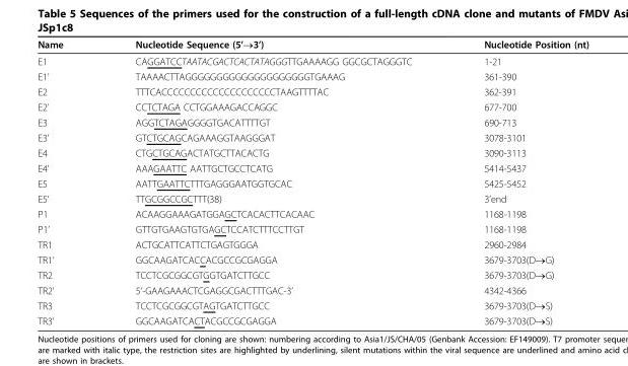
<table><thead><tr><td>Name</td><td>Nucleotide Sequence (5’→3’)</td><td>Nucleotide Position (nt)</td></tr></thead><tbody><tr><td>E1</td><td>CAGGATCCTAATACGACTCACTATAGGGTTGAAAAGG GGCGCTAGGGTC</td><td>1-21</td></tr><tr><td>E1’</td><td>TAAAACTTAGGGGGGGGGGGGGGGGGGGGTGAAAG</td><td>361-390</td></tr><tr><td>E2</td><td>TTTCACCCCCCCCCCCCCCCCCCCCTAAGTTTTAC</td><td>362-391</td></tr><tr><td>E2’</td><td>CCTCTAGA CCTGGAAAGACCAGGC</td><td>677-700</td></tr><tr><td>E3</td><td>AGGTCTAGAGGGGTGACATTTTGT</td><td>690-713</td></tr><tr><td>E3’</td><td>GTCTGCAGCAGAAAGGTAAGGGAT</td><td>3078-3101</td></tr><tr><td>E4</td><td>CTGCTGCAGACTATGCTTACACTG</td><td>3090-3113</td></tr><tr><td>E4’</td><td>AAAGAATTC AATTGCTGCCTCATG</td><td>5414-5437</td></tr><tr><td>E5</td><td>AATTGAATTCTTTGAGGGAATGGTGCAC</td><td>5425-5452</td></tr><tr><td>E5’</td><td>TTGCGGCCGCTTT(38)</td><td>3’end</td></tr><tr><td>P1</td><td>ACAAGGAAAGATGGAGCTCACACTTCACAAC</td><td>1168-1198</td></tr><tr><td>P1’</td><td>GTTGTGAAGTGTGAGCTCCATCTTTCCTTGT</td><td>1168-1198</td></tr><tr><td>TR1</td><td>ACTGCATTCATTCTGAGTGGGA</td><td>2960-2984</td></tr><tr><td>TR1’</td><td>GGCAAGATCACCACGCCGCGAGGA</td><td>3679-3703(D→G)</td></tr><tr><td>TR2</td><td>TCCTCGCGGCGTGGTGATCTTGCC</td><td>3679-3703(D→G)</td></tr><tr><td>TR2’</td><td>5’-GAAGAAACTCGAGGCGACTTTGAC-3’</td><td>4342-4366</td></tr><tr><td>TR3</td><td>TCCTCGCGGCGTAGTGATCTTGCC</td><td>3679-3703(D→S)</td></tr><tr><td>TR3’</td><td>GGCAAGATCACTACGCCGCGAGGA</td><td>3679-3703(D→S)</td></tr></tbody></table>